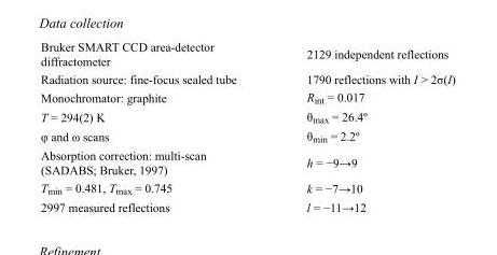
<table><tbody><tr><td>Bruker SMART CCD area-detector diffractometer</td><td>2129 independent reflections</td></tr><tr><td>Radiation source: fine-focus sealed tube</td><td>1790 reflections with I &gt; 2σ(I)</td></tr><tr><td>Monochromator: graphite</td><td>R<sub>int</sub> = 0.017</td></tr><tr><td>T = 294(2) K</td><td>θ<sub>max</sub> = 26.4º</td></tr><tr><td>φ and ω scans</td><td>θ<sub>min</sub> = 2.2º</td></tr><tr><td>Absorption correction: multi-scan (SADABS; Bruker, 1997)</td><td>h = −9→9</td></tr><tr><td>T<sub>min</sub> = 0.481, T<sub>max</sub> = 0.745</td><td>k = −7→10</td></tr><tr><td>2997 measured reflections</td><td>l = −11→12</td></tr></tbody></table>